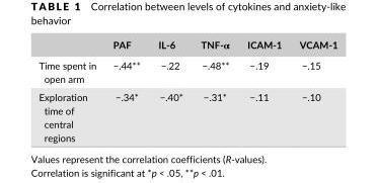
<table><thead><tr><td></td><td>PAF</td><td>IL- 6</td><td>TNF- α</td><td>ICAM- 1</td><td>VCAM- 1</td></tr></thead><tbody><tr><td>Time spent in open arm</td><td>−.44**</td><td>−.22</td><td>−.48**</td><td>−.19</td><td>−.15</td></tr><tr><td>Exploration time of central regions</td><td>−.34*</td><td>−.40*</td><td>−.31*</td><td>−.11</td><td>−.10</td></tr></tbody></table>